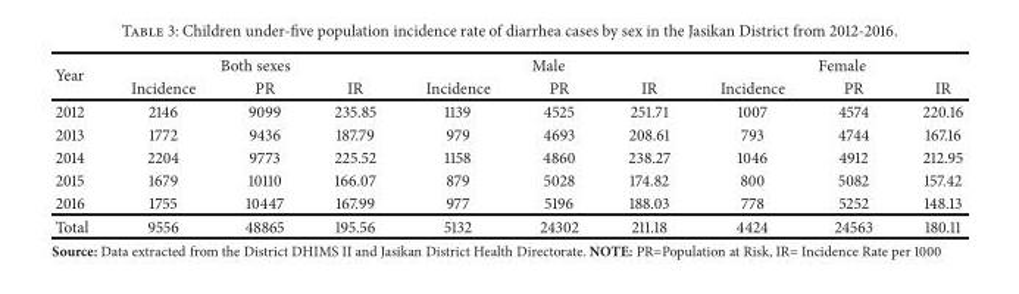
<table><thead><tr><td rowspan="2">Year</td><td colspan="3">Both sexes</td><td colspan="3">Male</td><td colspan="3">Female</td></tr><tr><td>Incidence</td><td>PR</td><td>IR</td><td>Incidence</td><td>PR</td><td>IR</td><td>Incidence</td><td>PR</td><td>IR</td></tr></thead><tbody><tr><td>2012</td><td>2146</td><td>9099</td><td>235.85</td><td>1139</td><td>4525</td><td>251.71</td><td>1007</td><td>4574</td><td>220.16</td></tr><tr><td>2013</td><td>1772</td><td>9436</td><td>187.79</td><td>979</td><td>4693</td><td>208.61</td><td>793</td><td>4744</td><td>167.16</td></tr><tr><td>2014</td><td>2204</td><td>9773</td><td>225.52</td><td>1158</td><td>4860</td><td>238.27</td><td>1046</td><td>4912</td><td>212.95</td></tr><tr><td>2015</td><td>1679</td><td>10110</td><td>166.07</td><td>879</td><td>5028</td><td>174.82</td><td>800</td><td>5082</td><td>157.42</td></tr><tr><td>2016</td><td>1755</td><td>10447</td><td>167.99</td><td>977</td><td>5196</td><td>188.03</td><td>778</td><td>5252</td><td>148.13</td></tr><tr><td>Total</td><td>9556</td><td>48865</td><td>195.56</td><td>5132</td><td>24302</td><td>211.18</td><td>4424</td><td>24563</td><td>180.11</td></tr></tbody></table>